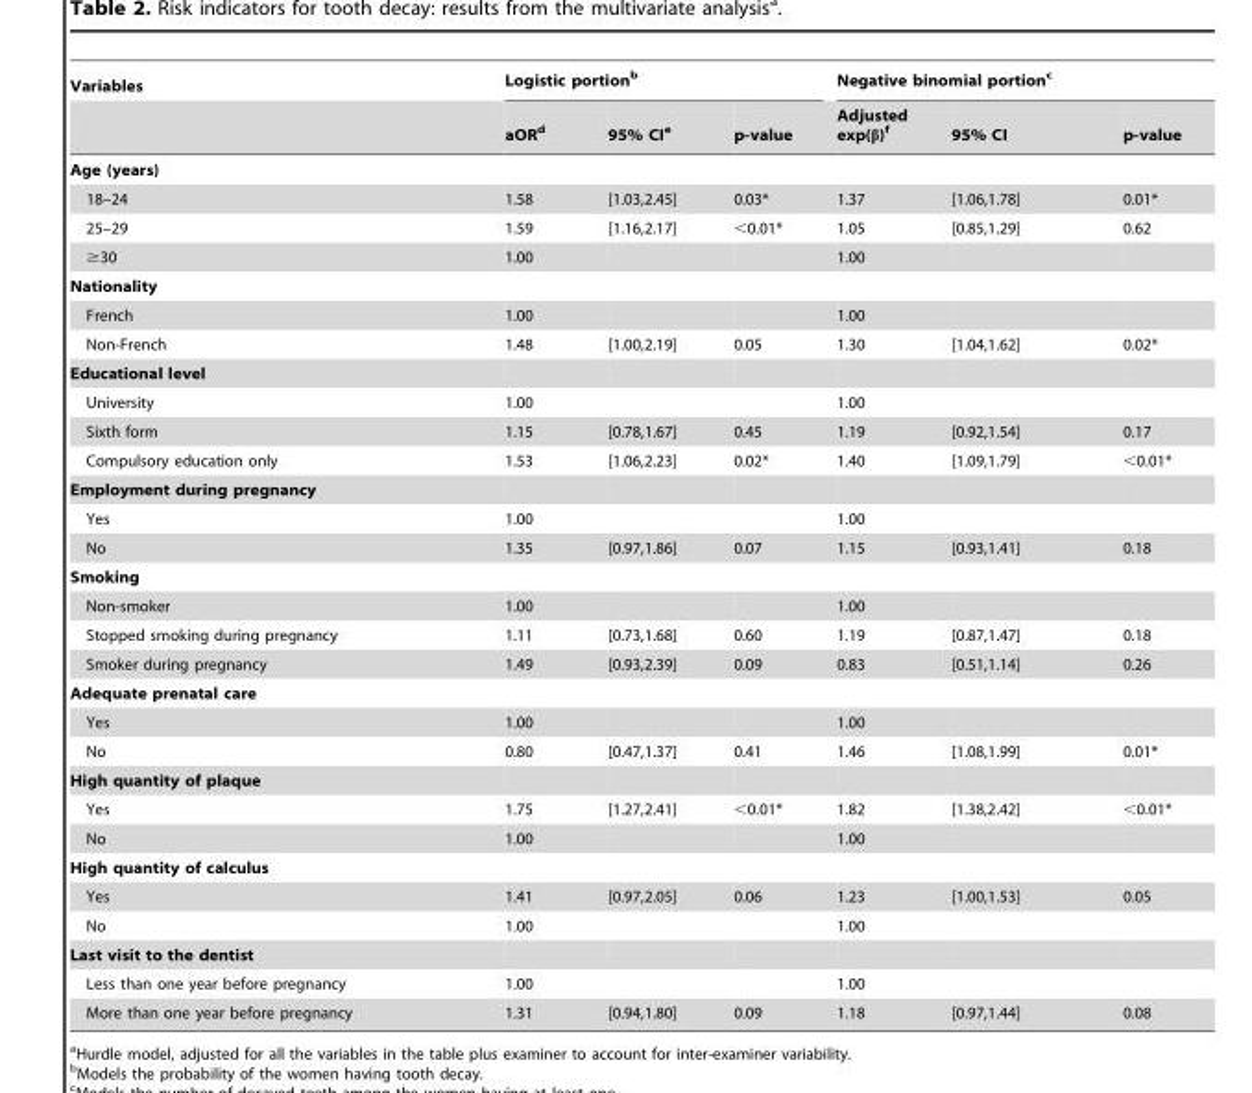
<table><thead><tr><td rowspan="2">Variables</td><td colspan="3">Logistic portion<sup>b</sup></td><td colspan="3">Negative binomial portion<sup>c</sup></td></tr><tr><td>aOR<sup>d</sup></td><td>95% CI<sup>e</sup></td><td>p-value</td><td>Adjusted exp(β)<sup>f</sup></td><td>95% CI</td><td>p-value</td></tr></thead><tbody><tr><td colspan="7">Age (years)</td></tr><tr><td>18–24</td><td>1.58</td><td>[1.03,2.45]</td><td>0.03*</td><td>1.37</td><td>[1.06,1.78]</td><td>0.01*</td></tr><tr><td>25–29</td><td>1.59</td><td>[1.16,2.17]</td><td>&lt;0.01*</td><td>1.05</td><td>[0.85,1.29]</td><td>0.62</td></tr><tr><td>≥30</td><td>1.00</td><td></td><td></td><td>1.00</td><td></td><td></td></tr><tr><td colspan="7">Nationality</td></tr><tr><td>French</td><td>1.00</td><td></td><td></td><td>1.00</td><td></td><td></td></tr><tr><td>Non-French</td><td>1.48</td><td>[1.00,2.19]</td><td>0.05</td><td>1.30</td><td>[1.04,1.62]</td><td>0.02*</td></tr><tr><td colspan="7">Educational level</td></tr><tr><td>University</td><td>1.00</td><td></td><td></td><td>1.00</td><td></td><td></td></tr><tr><td>Sixth form</td><td>1.15</td><td>[0.78,1.67]</td><td>0.45</td><td>1.19</td><td>[0.92,1.54]</td><td>0.17</td></tr><tr><td>Compulsory education only</td><td>1.53</td><td>[1.06,2.23]</td><td>0.02*</td><td>1.40</td><td>[1.09,1.79]</td><td>&lt;0.01*</td></tr><tr><td colspan="7">Employment during pregnancy</td></tr><tr><td>Yes</td><td>1.00</td><td></td><td></td><td>1.00</td><td></td><td></td></tr><tr><td>No</td><td>1.35</td><td>[0.97,1.86]</td><td>0.07</td><td>1.15</td><td>[0.93,1.41]</td><td>0.18</td></tr><tr><td colspan="7">Smoking</td></tr><tr><td>Non-smoker</td><td>1.00</td><td></td><td></td><td>1.00</td><td></td><td></td></tr><tr><td>Stopped smoking during pregnancy</td><td>1.11</td><td>[0.73,1.68]</td><td>0.60</td><td>1.19</td><td>[0.87,1.47]</td><td>0.18</td></tr><tr><td>Smoker during pregnancy</td><td>1.49</td><td>[0.93,2.39]</td><td>0.09</td><td>0.83</td><td>[0.51,1.14]</td><td>0.26</td></tr><tr><td colspan="7">Adequate prenatal care</td></tr><tr><td>Yes</td><td>1.00</td><td></td><td></td><td>1.00</td><td></td><td></td></tr><tr><td>No</td><td>0.80</td><td>[0.47,1.37]</td><td>0.41</td><td>1.46</td><td>[1.08,1.99]</td><td>0.01*</td></tr><tr><td colspan="7">High quantity of plaque</td></tr><tr><td>Yes</td><td>1.75</td><td>[1.27,2.41]</td><td>&lt;0.01*</td><td>1.82</td><td>[1.38,2.42]</td><td>&lt;0.01*</td></tr><tr><td>No</td><td>1.00</td><td></td><td></td><td>1.00</td><td></td><td></td></tr><tr><td colspan="7">High quantity of calculus</td></tr><tr><td>Yes</td><td>1.41</td><td>[0.97,2.05]</td><td>0.06</td><td>1.23</td><td>[1.00,1.53]</td><td>0.05</td></tr><tr><td>No</td><td>1.00</td><td></td><td></td><td>1.00</td><td></td><td></td></tr><tr><td colspan="7">Last visit to the dentist</td></tr><tr><td>Less than one year before pregnancy</td><td>1.00</td><td></td><td></td><td>1.00</td><td></td><td></td></tr><tr><td>More than one year before pregnancy</td><td>1.31</td><td>[0.94,1.80]</td><td>0.09</td><td>1.18</td><td>[0.97,1.44]</td><td>0.08</td></tr></tbody></table>